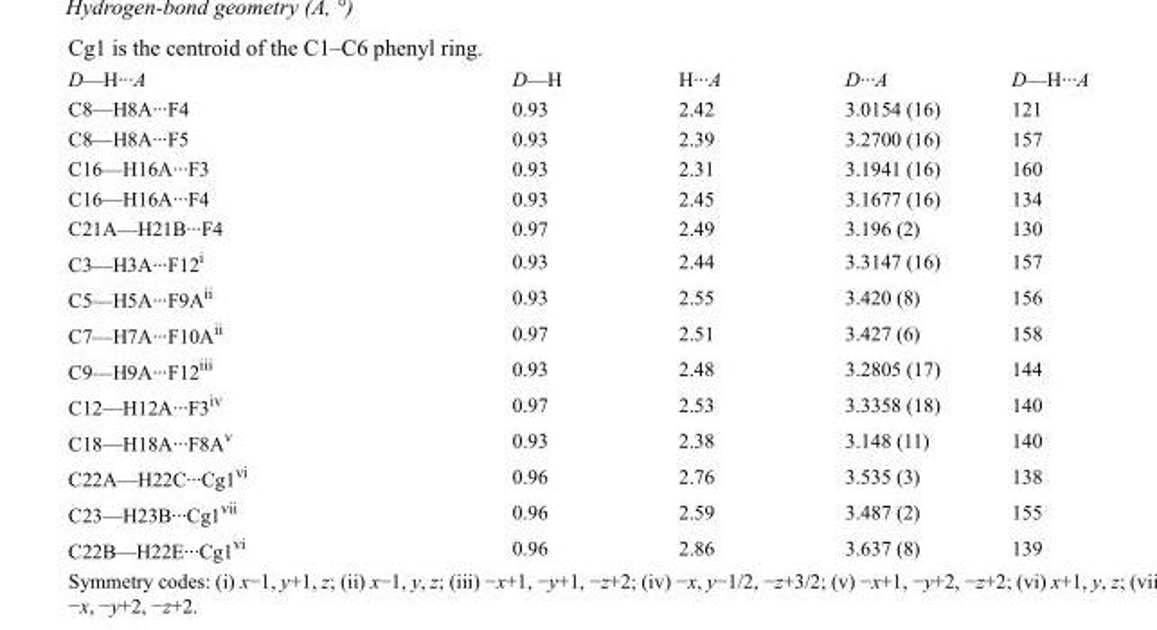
<table><tbody><tr><td>D—H···A</td><td>D—H</td><td>H···A</td><td>D···A</td><td>D—H···A</td></tr><tr><td>C8—H8A···F4</td><td>0.93</td><td>2.42</td><td>3.0154 (16)</td><td>121</td></tr><tr><td>C8—H8A···F5</td><td>0.93</td><td>2.39</td><td>3.2700 (16)</td><td>157</td></tr><tr><td>C16—H16A···F3</td><td>0.93</td><td>2.31</td><td>3.1941 (16)</td><td>160</td></tr><tr><td>C16—H16A···F4</td><td>0.93</td><td>2.45</td><td>3.1677 (16)</td><td>134</td></tr><tr><td>C21A—H21B···F4</td><td>0.97</td><td>2.49</td><td>3.196 (2)</td><td>130</td></tr><tr><td>C3—H3A···F12<sup>i</sup></td><td>0.93</td><td>2.44</td><td>3.3147 (16)</td><td>157</td></tr><tr><td>C5—H5A···F9A<sup>ii</sup></td><td>0.93</td><td>2.55</td><td>3.420 (8)</td><td>156</td></tr><tr><td>C7—H7A···F10A<sup>ii</sup></td><td>0.97</td><td>2.51</td><td>3.427 (6)</td><td>158</td></tr><tr><td>C9—H9A···F12<sup>iii</sup></td><td>0.93</td><td>2.48</td><td>3.2805 (17)</td><td>144</td></tr><tr><td>C12—H12A···F3<sup>iv</sup></td><td>0.97</td><td>2.53</td><td>3.3358 (18)</td><td>140</td></tr><tr><td>C18—H18A···F8A<sup>v</sup></td><td>0.93</td><td>2.38</td><td>3.148 (11)</td><td>140</td></tr><tr><td>C22A—H22C···Cg1<sup>vi</sup></td><td>0.96</td><td>2.76</td><td>3.535 (3)</td><td>138</td></tr><tr><td>C23—H23B···Cg1<sup>vii</sup></td><td>0.96</td><td>2.59</td><td>3.487 (2)</td><td>155</td></tr><tr><td>C22B—H22E···Cg1<sup>vi</sup></td><td>0.96</td><td>2.86</td><td>3.637 (8)</td><td>139</td></tr></tbody></table>